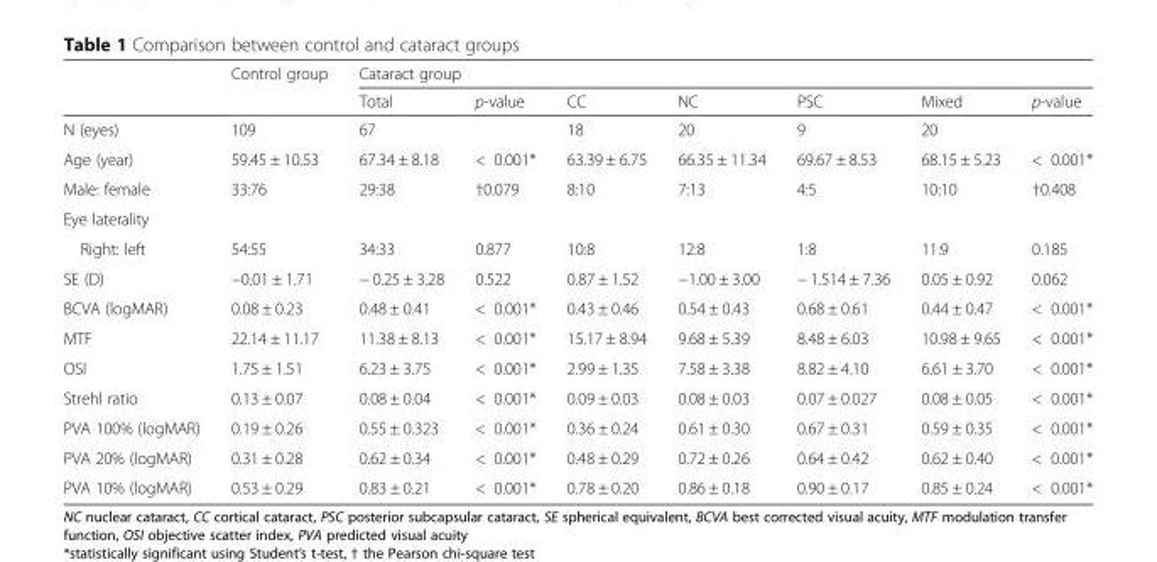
<table><thead><tr><td rowspan="2"></td><td rowspan="2">Control group</td><td colspan="7">Cataract group</td></tr><tr><td>Total</td><td>p-value</td><td>CC</td><td>NC</td><td>PSC</td><td>Mixed</td><td>p-value</td></tr></thead><tbody><tr><td>N (eyes)</td><td>109</td><td>67</td><td></td><td>18</td><td>20</td><td>9</td><td>20</td><td></td></tr><tr><td>Age (year)</td><td>59.45 ± 10.53</td><td>67.34 ± 8.18</td><td>&lt; 0.001*</td><td>63.39 ± 6.75</td><td>66.35 ± 11.34</td><td>69.67 ± 8.53</td><td>68.15 ± 5.23</td><td>&lt; 0.001*</td></tr><tr><td>Male: female</td><td>33:76</td><td>29:38</td><td>†0.079</td><td>8:10</td><td>7:13</td><td>4:5</td><td>10:10</td><td>†0.408</td></tr><tr><td colspan="9">Eye laterality</td></tr><tr><td>Right: left</td><td>54:55</td><td>34:33</td><td>0.877</td><td>10:8</td><td>12:8</td><td>1:8</td><td>11:9</td><td>0.185</td></tr><tr><td>SE (D)</td><td>−0.01 ± 1.71</td><td>− 0.25 ± 3.28</td><td>0.522</td><td>0.87 ± 1.52</td><td>−1.00 ± 3.00</td><td>− 1.514 ± 7.36</td><td>0.05 ± 0.92</td><td>0.062</td></tr><tr><td>BCVA (logMAR)</td><td>0.08 ± 0.23</td><td>0.48 ± 0.41</td><td>&lt; 0.001*</td><td>0.43 ± 0.46</td><td>0.54 ± 0.43</td><td>0.68 ± 0.61</td><td>0.44 ± 0.47</td><td>&lt; 0.001*</td></tr><tr><td>MTF</td><td>22.14 ± 11.17</td><td>11.38 ± 8.13</td><td>&lt; 0.001*</td><td>15.17 ± 8.94</td><td>9.68 ± 5.39</td><td>8.48 ± 6.03</td><td>10.98 ± 9.65</td><td>&lt; 0.001*</td></tr><tr><td>OSI</td><td>1.75 ± 1.51</td><td>6.23 ± 3.75</td><td>&lt; 0.001*</td><td>2.99 ± 1.35</td><td>7.58 ± 3.38</td><td>8.82 ± 4.10</td><td>6.61 ± 3.70</td><td>&lt; 0.001*</td></tr><tr><td>Strehl ratio</td><td>0.13 ± 0.07</td><td>0.08 ± 0.04</td><td>&lt; 0.001*</td><td>0.09 ± 0.03</td><td>0.08 ± 0.03</td><td>0.07 ± 0.027</td><td>0.08 ± 0.05</td><td>&lt; 0.001*</td></tr><tr><td>PVA 100% (logMAR)</td><td>0.19 ± 0.26</td><td>0.55 ± 0.323</td><td>&lt; 0.001*</td><td>0.36 ± 0.24</td><td>0.61 ± 0.30</td><td>0.67 ± 0.31</td><td>0.59 ± 0.35</td><td>&lt; 0.001*</td></tr><tr><td>PVA 20% (logMAR)</td><td>0.31 ± 0.28</td><td>0.62 ± 0.34</td><td>&lt; 0.001*</td><td>0.48 ± 0.29</td><td>0.72 ± 0.26</td><td>0.64 ± 0.42</td><td>0.62 ± 0.40</td><td>&lt; 0.001*</td></tr><tr><td>PVA 10% (logMAR)</td><td>0.53 ± 0.29</td><td>0.83 ± 0.21</td><td>&lt; 0.001*</td><td>0.78 ± 0.20</td><td>0.86 ± 0.18</td><td>0.90 ± 0.17</td><td>0.85 ± 0.24</td><td>&lt; 0.001*</td></tr></tbody></table>